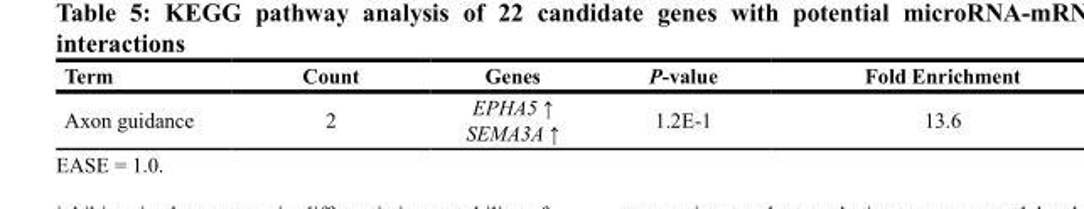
<table><thead><tr><td>Term</td><td>Count</td><td>Genes</td><td>P-value</td><td>Fold Enrichment</td></tr></thead><tbody><tr><td>Axon guidance</td><td>2</td><td>EPHA5 ↑ SEMA3A ↑</td><td>1.2E-1</td><td>13.6</td></tr></tbody></table>